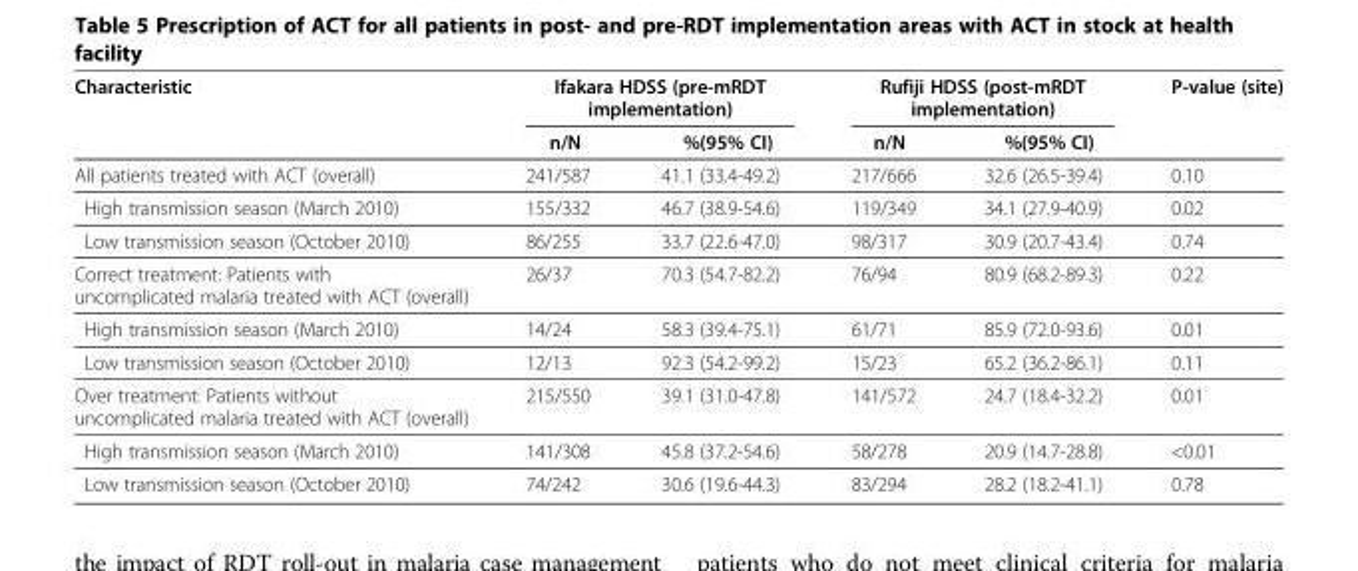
<table><thead><tr><td rowspan="2">Characteristic</td><td colspan="2">Ifakara HDSS (pre-mRDT implementation)</td><td colspan="2">Rufiji HDSS (post-mRDT implementation)</td><td rowspan="2">P-value (site)</td></tr><tr><td>n/N</td><td>%(95% CI)</td><td>n/N</td><td>%(95% CI)</td></tr></thead><tbody><tr><td>All patients treated with ACT (overall)</td><td>241/587</td><td>41.1 (33.4-49.2)</td><td>217/666</td><td>32.6 (26.5-39.4)</td><td>0.10</td></tr><tr><td>High transmission season (March 2010)</td><td>155/332</td><td>46.7 (38.9-54.6)</td><td>119/349</td><td>34.1 (27.9-40.9)</td><td>0.02</td></tr><tr><td>Low transmission season (October 2010)</td><td>86/255</td><td>33.7 (22.6-47.0)</td><td>98/317</td><td>30.9 (20.7-43.4)</td><td>0.74</td></tr><tr><td>Correct treatment: Patients with uncomplicated malaria treated with ACT (overall)</td><td>26/37</td><td>70.3 (54.7-82.2)</td><td>76/94</td><td>80.9 (68.2-89.3)</td><td>0.22</td></tr><tr><td>High transmission season (March 2010)</td><td>14/24</td><td>58.3 (39.4-75.1)</td><td>61/71</td><td>85.9 (72.0-93.6)</td><td>0.01</td></tr><tr><td>Low transmission season (October 2010)</td><td>12/13</td><td>92.3 (54.2-99.2)</td><td>15/23</td><td>65.2 (36.2-86.1)</td><td>0.11</td></tr><tr><td>Over treatment: Patients without uncomplicated malaria treated with ACT (overall)</td><td>215/550</td><td>39.1 (31.0-47.8)</td><td>141/572</td><td>24.7 (18.4-32.2)</td><td>0.01</td></tr><tr><td>High transmission season (March 2010)</td><td>141/308</td><td>45.8 (37.2-54.6)</td><td>58/278</td><td>20.9 (14.7-28.8)</td><td>&lt;0.01</td></tr><tr><td>Low transmission season (October 2010)</td><td>74/242</td><td>30.6 (19.6-44.3)</td><td>83/294</td><td>28.2 (18.2-41.1)</td><td>0.78</td></tr></tbody></table>